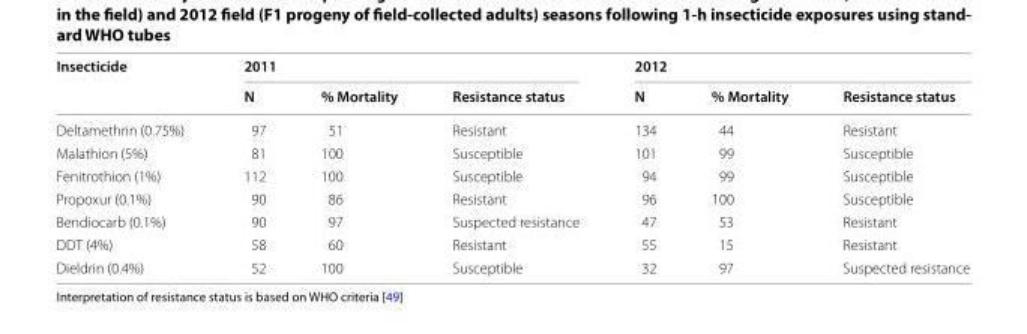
<table><thead><tr><td rowspan="2">Insecticide</td><td colspan="3">2011</td><td colspan="3">2012</td></tr><tr><td>N</td><td>% Mortality</td><td>Resistance status</td><td>N</td><td>% Mortality</td><td>Resistance status</td></tr></thead><tbody><tr><td>Deltamethrin (0.75%)</td><td>97</td><td>51</td><td>Resistant</td><td>134</td><td>44</td><td>Resistant</td></tr><tr><td>Malathion (5%)</td><td>81</td><td>100</td><td>Susceptible</td><td>101</td><td>99</td><td>Susceptible</td></tr><tr><td>Fenitrothion (1%)</td><td>112</td><td>100</td><td>Susceptible</td><td>94</td><td>99</td><td>Susceptible</td></tr><tr><td>Propoxur (0.1%)</td><td>90</td><td>86</td><td>Resistant</td><td>96</td><td>100</td><td>Susceptible</td></tr><tr><td>Bendiocarb (0.1%)</td><td>90</td><td>97</td><td>Suspected resistance</td><td>47</td><td>53</td><td>Resistant</td></tr><tr><td>DDT (4%)</td><td>58</td><td>60</td><td>Resistant</td><td>55</td><td>15</td><td>Resistant</td></tr><tr><td>Dieldrin (0.4%)</td><td>52</td><td>100</td><td>Susceptible</td><td>32</td><td>97</td><td>Suspected resistance</td></tr></tbody></table>